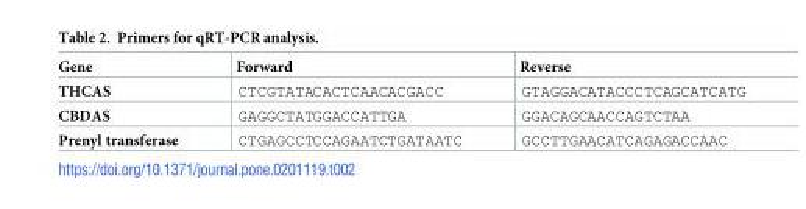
<table><thead><tr><td>Gene</td><td>Forward</td><td>Reverse</td></tr></thead><tbody><tr><td>THCAS</td><td>CTCGTATACACTCAACACGACC</td><td>GTAGGACATACCCTCAGCATCATG</td></tr><tr><td>CBDAS</td><td>GAGGCTATGGACCATTGA</td><td>GGACAGCAACCAGTCTAA</td></tr><tr><td>Prenyl transferase</td><td>CTGAGCCTCCAGAATCTGATAATC</td><td>GCCTTGAACATCAGAGACCAAC</td></tr></tbody></table>